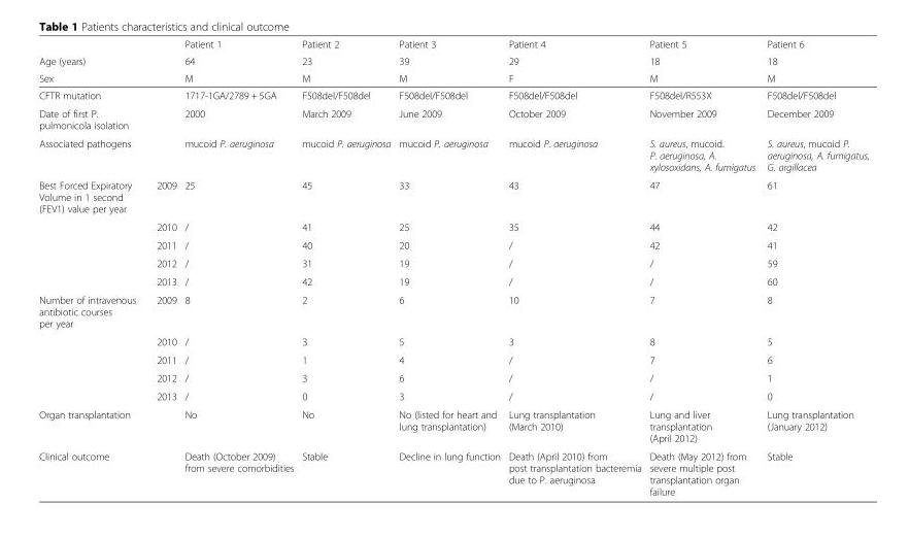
<table><thead><tr><td rowspan="3">Age (years) Sex</td><td rowspan="3"></td><td rowspan="3">Patient 1 64 M</td><td rowspan="3">Patient 2 23 M</td><td rowspan="3">Patient 3 39 M</td><td rowspan="3">Patient 4 29 F</td><td rowspan="3">Patient 5 18 M</td><td rowspan="3">Patient 6 18 M</td></tr><tr></tr><tr></tr></thead><tbody><tr><td>CFTR mutation</td><td></td><td>1717-1GA/2789 + 5GA</td><td>F508del/F508del</td><td>F508del/F508del</td><td>F508del/F508del</td><td>F508del/R553X</td><td>F508del/F508del</td></tr><tr><td>Date of first P. pulmonicola isolation</td><td></td><td>2000</td><td>March 2009</td><td>June 2009</td><td>October 2009</td><td>November 2009</td><td>December 2009</td></tr><tr><td>Associated pathogens</td><td></td><td>mucoid P. aeruginosa</td><td>mucoid P. aeruginosa</td><td>mucoid P. aeruginosa</td><td>mucoid P. aeruginosa</td><td>S. aureus, mucoid. P. aeruginosa, A. xylosoxidans, A. fumigatus</td><td>S. aureus, mucoid P. aeruginosa, A. fumigatus, G. argillacea</td></tr><tr><td rowspan="5">Best Forced Expiratory Volume in 1 second (FEV1) value per year</td><td>2009</td><td>25</td><td>45</td><td>33</td><td>43</td><td>47</td><td>61</td></tr><tr><td>2010</td><td>/</td><td>41</td><td>25</td><td>35</td><td>44</td><td>42</td></tr><tr><td>2011</td><td>/</td><td>40</td><td>20</td><td>/</td><td>42</td><td>41</td></tr><tr><td>2012</td><td>/</td><td>31</td><td>19</td><td>/</td><td>/</td><td>59</td></tr><tr><td>2013</td><td>/</td><td>42</td><td>19</td><td>/</td><td>/</td><td>60</td></tr><tr><td rowspan="5">Number of intravenous antibiotic courses per year</td><td>2009</td><td>8</td><td>2</td><td>6</td><td>10</td><td>7</td><td>8</td></tr><tr><td>2010</td><td>/</td><td>3</td><td>5</td><td>3</td><td>8</td><td>5</td></tr><tr><td>2011</td><td>/</td><td>1</td><td>4</td><td>/</td><td>7</td><td>6</td></tr><tr><td>2012</td><td>/</td><td>3</td><td>6</td><td>/</td><td>/</td><td>1</td></tr><tr><td>2013</td><td>/</td><td>0</td><td>3</td><td>/</td><td>/</td><td>0</td></tr><tr><td>Organ transplantation</td><td></td><td>No</td><td>No</td><td>No (listed for heart and lung transplantation)</td><td>Lung transplantation (March 2010)</td><td>Lung and liver transplantation (April 2012)</td><td>Lung transplantation (January 2012)</td></tr><tr><td>Clinical outcome</td><td></td><td>Death (October 2009) from severe comorbidities</td><td>Stable</td><td>Decline in lung function</td><td>Death (April 2010) from post transplantation bacteremia due to P. aeruginosa</td><td>Death (May 2012) from severe multiple post transplantation organ failure</td><td>Stable</td></tr></tbody></table>